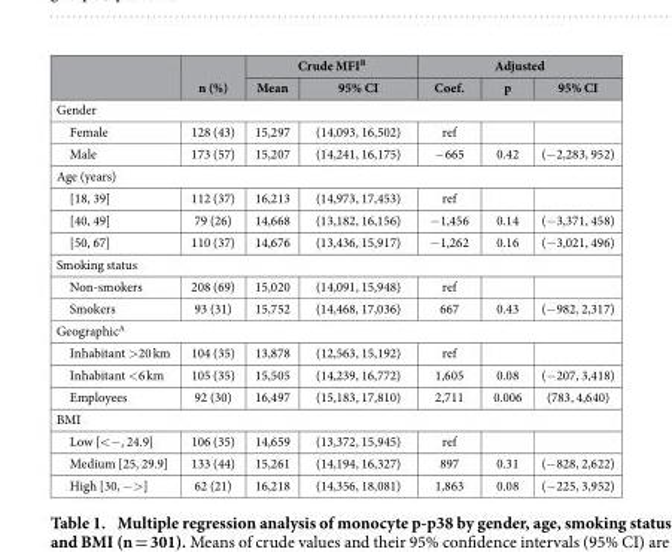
<table><thead><tr><td rowspan="2"></td><td rowspan="2">n (%)</td><td colspan="2">Crude MFI<sup>B</sup></td><td colspan="3">Adjusted</td></tr><tr><td>Mean</td><td>95% CI</td><td>Coef.</td><td>p</td><td>95% CI</td></tr></thead><tbody><tr><td colspan="7">Gender</td></tr><tr><td>Female</td><td>128 (43)</td><td>15,297</td><td>(14,093, 16,502)</td><td>ref</td><td></td><td></td></tr><tr><td>Male</td><td>173 (57)</td><td>15,207</td><td>(14,241, 16,175)</td><td>− 665</td><td>0.42</td><td>(− 2,283, 952)</td></tr><tr><td colspan="7">Age (years)</td></tr><tr><td>[18, 39]</td><td>112 (37)</td><td>16,213</td><td>(14,973, 17,453)</td><td>ref</td><td></td><td></td></tr><tr><td>[40, 49]</td><td>79 (26)</td><td>14,668</td><td>(13,182, 16,156)</td><td>− 1,456</td><td>0.14</td><td>(− 3,371, 458)</td></tr><tr><td>[50, 67]</td><td>110 (37)</td><td>14,676</td><td>(13,436, 15,917)</td><td>− 1,262</td><td>0.16</td><td>(− 3,021, 496)</td></tr><tr><td colspan="7">Smoking status</td></tr><tr><td>Non-smokers</td><td>208 (69)</td><td>15,020</td><td>(14,091, 15,948)</td><td>ref</td><td></td><td></td></tr><tr><td>Smokers</td><td>93 (31)</td><td>15,752</td><td>(14,468, 17,036)</td><td>667</td><td>0.43</td><td>(− 982, 2,317)</td></tr><tr><td colspan="7">Geographic<sup>A</sup></td></tr><tr><td>Inhabitant &gt; 20 km</td><td>104 (35)</td><td>13,878</td><td>(12,563, 15,192)</td><td>ref</td><td></td><td></td></tr><tr><td>Inhabitant &lt; 6 km</td><td>105 (35)</td><td>15,505</td><td>(14,239, 16,772)</td><td>1,605</td><td>0.08</td><td>(− 207, 3,418)</td></tr><tr><td>Employees</td><td>92 (30)</td><td>16,497</td><td>(15,183, 17,810)</td><td>2,711</td><td>0.006</td><td>(783, 4,640)</td></tr><tr><td colspan="7">BMI</td></tr><tr><td>Low [&lt; − , 24.9]</td><td>106 (35)</td><td>14,659</td><td>(13,372, 15,945)</td><td>ref</td><td></td><td></td></tr><tr><td>Medium [25, 29.9]</td><td>133 (44)</td><td>15,261</td><td>(14,194, 16,327)</td><td>897</td><td>0.31</td><td>(− 828, 2,622)</td></tr><tr><td>High [30, − &gt; ]</td><td>62 (21)</td><td>16,218</td><td>(14,356, 18,081)</td><td>1,863</td><td>0.08</td><td>(− 225, 3,952)</td></tr></tbody></table>